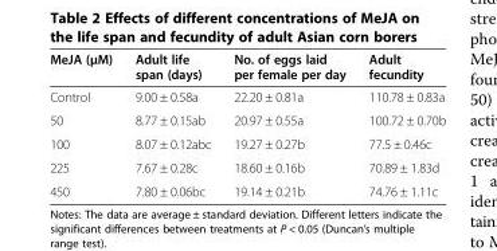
<table><thead><tr><td>MeJA (μM)</td><td>Adult life span (days)</td><td>No. of eggs laid per female per day</td><td>Adult fecundity</td></tr></thead><tbody><tr><td>Control</td><td>9.00 ± 0.58a</td><td>22.20 ± 0.81a</td><td>110.78 ± 0.83a</td></tr><tr><td>50</td><td>8.77 ± 0.15ab</td><td>20.97 ± 0.55a</td><td>100.72 ± 0.70b</td></tr><tr><td>100</td><td>8.07 ± 0.12abc</td><td>19.27 ± 0.27b</td><td>77.5 ± 0.46c</td></tr><tr><td>225</td><td>7.67 ± 0.28c</td><td>18.60 ± 0.16b</td><td>70.89 ± 1.83d</td></tr><tr><td>450</td><td>7.80 ± 0.06bc</td><td>19.14 ± 0.21b</td><td>74.76 ± 1.11c</td></tr></tbody></table>